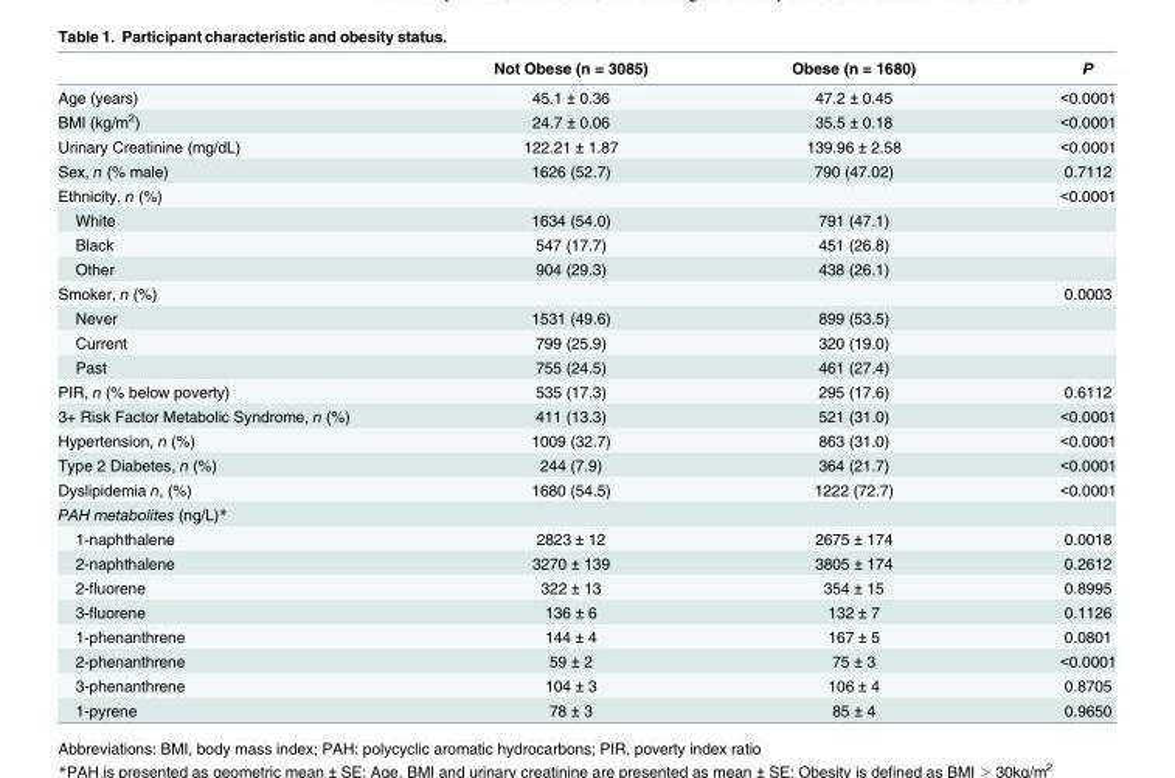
<table><thead><tr><td></td><td>Not Obese (n = 3085)</td><td>Obese (n = 1680)</td><td>P</td></tr></thead><tbody><tr><td>Age (years)</td><td>45.1 ± 0.36</td><td>47.2 ± 0.45</td><td>&lt;0.0001</td></tr><tr><td>BMI (kg/m<sup>2</sup>)</td><td>24.7 ± 0.06</td><td>35.5 ± 0.18</td><td>&lt;0.0001</td></tr><tr><td>Urinary Creatinine (mg/dL)</td><td>122.21 ± 1.87</td><td>139.96 ± 2.58</td><td>&lt;0.0001</td></tr><tr><td>Sex, n (% male)</td><td>1626 (52.7)</td><td>790 (47.02)</td><td>0.7112</td></tr><tr><td>Ethnicity, n (%)</td><td></td><td></td><td>&lt;0.0001</td></tr><tr><td>White</td><td>1634 (54.0)</td><td>791 (47.1)</td><td></td></tr><tr><td>Black</td><td>547 (17.7)</td><td>451 (26.8)</td><td></td></tr><tr><td>Other</td><td>904 (29.3)</td><td>438 (26.1)</td><td></td></tr><tr><td>Smoker, n (%)</td><td></td><td></td><td>0.0003</td></tr><tr><td>Never</td><td>1531 (49.6)</td><td>899 (53.5)</td><td></td></tr><tr><td>Current</td><td>799 (25.9)</td><td>320 (19.0)</td><td></td></tr><tr><td>Past</td><td>755 (24.5)</td><td>461 (27.4)</td><td></td></tr><tr><td>PIR, n (% below poverty)</td><td>535 (17.3)</td><td>295 (17.6)</td><td>0.6112</td></tr><tr><td>3+ Risk Factor Metabolic Syndrome, n (%)</td><td>411 (13.3)</td><td>521 (31.0)</td><td>&lt;0.0001</td></tr><tr><td>Hypertension, n (%)</td><td>1009 (32.7)</td><td>863 (31.0)</td><td>&lt;0.0001</td></tr><tr><td>Type 2 Diabetes, n (%)</td><td>244 (7.9)</td><td>364 (21.7)</td><td>&lt;0.0001</td></tr><tr><td>Dyslipidemia n, (%)</td><td>1680 (54.5)</td><td>1222 (72.7)</td><td>&lt;0.0001</td></tr><tr><td colspan="4">PAH metabolites (ng/L)*</td></tr><tr><td>1-naphthalene</td><td>2823 ± 12</td><td>2675 ± 174</td><td>0.0018</td></tr><tr><td>2-naphthalene</td><td>3270 ± 139</td><td>3805 ± 174</td><td>0.2612</td></tr><tr><td>2-fluorene</td><td>322 ± 13</td><td>354 ± 15</td><td>0.8995</td></tr><tr><td>3-fluorene</td><td>136 ± 6</td><td>132 ± 7</td><td>0.1126</td></tr><tr><td>1-phenanthrene</td><td>144 ± 4</td><td>167 ± 5</td><td>0.0801</td></tr><tr><td>2-phenanthrene</td><td>59 ± 2</td><td>75 ± 3</td><td>&lt;0.0001</td></tr><tr><td>3-phenanthrene</td><td>104 ± 3</td><td>106 ± 4</td><td>0.8705</td></tr><tr><td>1-pyrene</td><td>78 ± 3</td><td>85 ± 4</td><td>0.9650</td></tr></tbody></table>